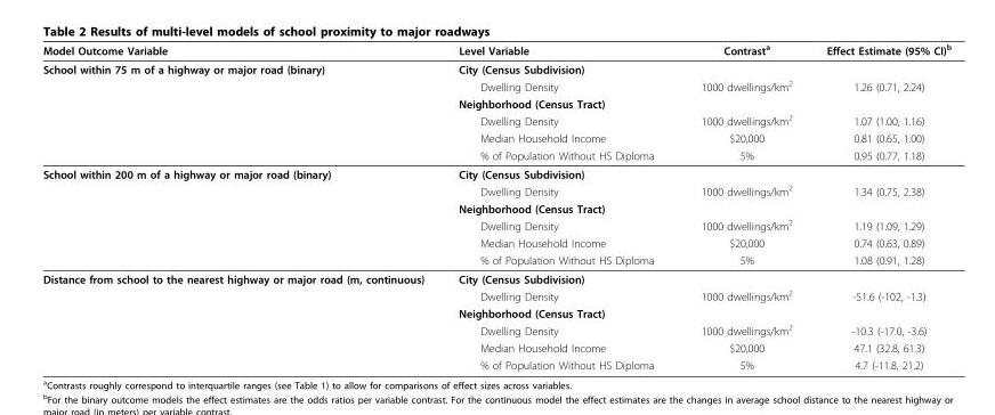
<table><thead><tr><td>Model Outcome Variable</td><td>Level Variable</td><td>Contrast<sup>a</sup></td><td>Effect Estimate (95% CI)<sup>b</sup></td></tr></thead><tbody><tr><td rowspan="6">School within 75 m of a highway or major road (binary)</td><td>City (Census Subdivision)</td><td></td><td></td></tr><tr><td>Dwelling Density</td><td>1000 dwellings/km<sup>2</sup></td><td>1.26 (0.71, 2.24)</td></tr><tr><td>Neighborhood (Census Tract)</td><td></td><td></td></tr><tr><td>Dwelling Density</td><td>1000 dwellings/km<sup>2</sup></td><td>1.07 (1.00, 1.16)</td></tr><tr><td>Median Household Income</td><td>$20,000</td><td>0.81 (0.65, 1.00)</td></tr><tr><td>% of Population Without HS Diploma</td><td>5%</td><td>0.95 (0.77, 1.18)</td></tr><tr><td rowspan="6">School within 200 m of a highway or major road (binary)</td><td>City (Census Subdivision)</td><td></td><td></td></tr><tr><td>Dwelling Density</td><td>1000 dwellings/km<sup>2</sup></td><td>1.34 (0.75, 2.38)</td></tr><tr><td>Neighborhood (Census Tract)</td><td></td><td></td></tr><tr><td>Dwelling Density</td><td>1000 dwellings/km<sup>2</sup></td><td>1.19 (1.09, 1.29)</td></tr><tr><td>Median Household Income</td><td>$20,000</td><td>0.74 (0.63, 0.89)</td></tr><tr><td>% of Population Without HS Diploma</td><td>5%</td><td>1.08 (0.91, 1.28)</td></tr><tr><td rowspan="6">Distance from school to the nearest highway or major road (m, continuous)</td><td>City (Census Subdivision)</td><td></td><td></td></tr><tr><td>Dwelling Density</td><td>1000 dwellings/km<sup>2</sup></td><td>-51.6 (-102, -1.3)</td></tr><tr><td>Neighborhood (Census Tract)</td><td></td><td></td></tr><tr><td>Dwelling Density</td><td>1000 dwellings/km<sup>2</sup></td><td>-10.3 (-17.0, -3.6)</td></tr><tr><td>Median Household Income</td><td>$20,000</td><td>47.1 (32.8, 61.3)</td></tr><tr><td>% of Population Without HS Diploma</td><td>5%</td><td>4.7 (-11.8, 21.2)</td></tr></tbody></table>